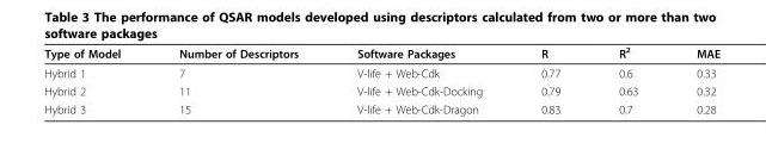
<table><thead><tr><td>Type of Model</td><td>Number of Descriptors</td><td>Software Packages</td><td>R</td><td>R<sup>2</sup></td><td>MAE</td></tr></thead><tbody><tr><td>Hybrid 1</td><td>7</td><td>V-life + Web-Cdk</td><td>0.77</td><td>0.6</td><td>0.33</td></tr><tr><td>Hybrid 2</td><td>11</td><td>V-life + Web-Cdk-Docking</td><td>0.79</td><td>0.63</td><td>0.32</td></tr><tr><td>Hybrid 3</td><td>15</td><td>V-life + Web-Cdk-Dragon</td><td>0.83</td><td>0.7</td><td>0.28</td></tr></tbody></table>